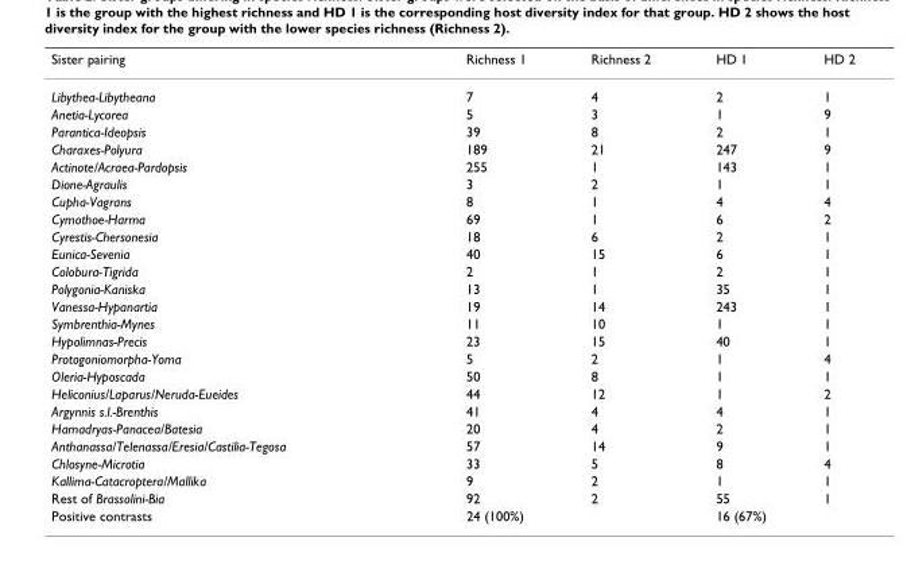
<table><thead><tr><td>Sister pairing</td><td>Richness 1</td><td>Richness 2</td><td>HD 1</td><td>HD 2</td></tr></thead><tbody><tr><td>Libythea-Libytheana</td><td>7</td><td>4</td><td>2</td><td>1</td></tr><tr><td>Anetia-Lycorea</td><td>5</td><td>3</td><td>1</td><td>9</td></tr><tr><td>Parantica-Ideopsis</td><td>39</td><td>8</td><td>2</td><td>1</td></tr><tr><td>Charaxes-Polyura</td><td>189</td><td>21</td><td>247</td><td>9</td></tr><tr><td>Actinote/Acraea-Pardopsis</td><td>255</td><td>1</td><td>143</td><td>1</td></tr><tr><td>Dione-Agraulis</td><td>3</td><td>2</td><td>1</td><td>1</td></tr><tr><td>Cupha-Vagrans</td><td>8</td><td>1</td><td>4</td><td>4</td></tr><tr><td>Cymothoe-Harma</td><td>69</td><td>1</td><td>6</td><td>2</td></tr><tr><td>Cyrestis-Chersonesia</td><td>18</td><td>6</td><td>2</td><td>1</td></tr><tr><td>Eunica-Sevenia</td><td>40</td><td>15</td><td>6</td><td>1</td></tr><tr><td>Colobura-Tigrida</td><td>2</td><td>1</td><td>2</td><td>1</td></tr><tr><td>Polygonia-Kaniska</td><td>13</td><td>1</td><td>35</td><td>1</td></tr><tr><td>Vanessa-Hypanartia</td><td>19</td><td>14</td><td>243</td><td>1</td></tr><tr><td>Symbrenthia-Mynes</td><td>11</td><td>10</td><td>1</td><td>1</td></tr><tr><td>Hypolimnas-Precis</td><td>23</td><td>15</td><td>40</td><td>1</td></tr><tr><td>Protogoniomorpha-Yoma</td><td>5</td><td>2</td><td>1</td><td>4</td></tr><tr><td>Oleria-Hyposcada</td><td>50</td><td>8</td><td>1</td><td>1</td></tr><tr><td>Heliconius/Laparus/Neruda-Eueides</td><td>44</td><td>12</td><td>1</td><td>2</td></tr><tr><td>Argynnis s.l.-Brenthis</td><td>41</td><td>4</td><td>4</td><td>1</td></tr><tr><td>Hamadryas-Panacea/Batesia</td><td>20</td><td>4</td><td>2</td><td>1</td></tr><tr><td>Anthanassa/Telenassa/Eresia/Castilia-Tegosa</td><td>57</td><td>14</td><td>9</td><td>1</td></tr><tr><td>Chlosyne-Microtia</td><td>33</td><td>5</td><td>8</td><td>4</td></tr><tr><td>Kallima-Catacroptera/Mallika</td><td>9</td><td>2</td><td>1</td><td>1</td></tr><tr><td>Rest of Brassolini-Bia</td><td>92</td><td>2</td><td>55</td><td>1</td></tr><tr><td>Positive contrasts</td><td>24 (100%)</td><td></td><td>16 (67%)</td><td></td></tr></tbody></table>